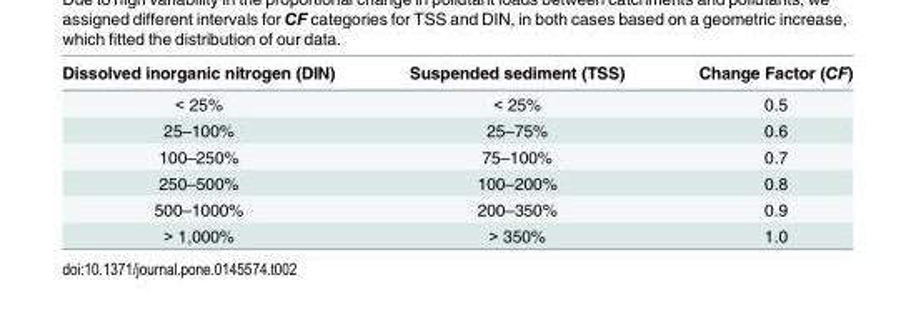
<table><thead><tr><td>Dissolved inorganic nitrogen (DIN)</td><td>Suspended sediment (TSS)</td><td>Change Factor (CF)</td></tr></thead><tbody><tr><td>&lt; 25%</td><td>&lt; 25%</td><td>0.5</td></tr><tr><td>25–100%</td><td>25–75%</td><td>0.6</td></tr><tr><td>100–250%</td><td>75–100%</td><td>0.7</td></tr><tr><td>250–500%</td><td>100–200%</td><td>0.8</td></tr><tr><td>500–1000%</td><td>200–350%</td><td>0.9</td></tr><tr><td>&gt; 1,000%</td><td>&gt; 350%</td><td>1.0</td></tr></tbody></table>